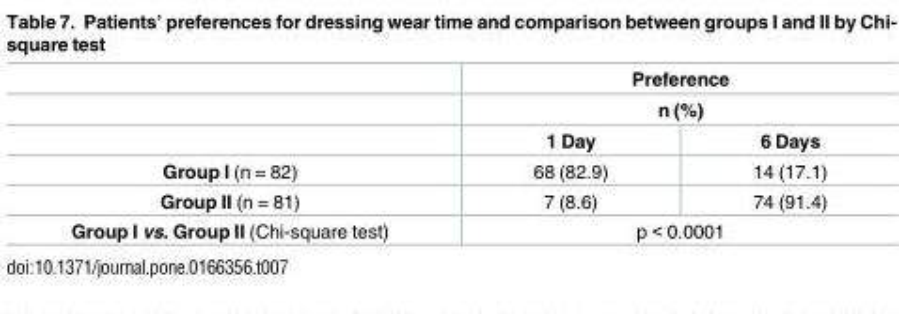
<table><thead><tr><td rowspan="3"></td><td rowspan="2" colspan="2">Preference n (%)</td></tr><tr></tr><tr><td>1 Day</td><td>6 Days</td></tr></thead><tbody><tr><td>Group I (n = 82)</td><td>68 (82.9)</td><td>14 (17.1)</td></tr><tr><td>Group II (n = 81)</td><td>7 (8.6)</td><td>74 (91.4)</td></tr><tr><td>Group I vs. Group II (Chi-square test)</td><td colspan="2">p &lt; 0.0001</td></tr></tbody></table>